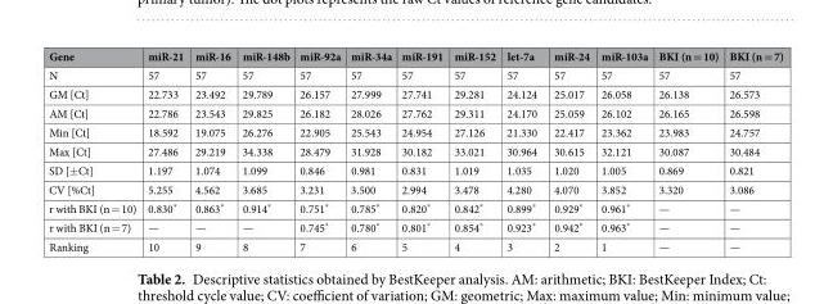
<table><thead><tr><td>Gene</td><td>miR-21</td><td>miR-16</td><td>miR-148b</td><td>miR-92a</td><td>miR-34a</td><td>miR-191</td><td>miR-152</td><td>let-7a</td><td>miR-24</td><td>miR-103a</td><td>BKI (n = 10)</td><td>BKI (n = 7)</td></tr></thead><tbody><tr><td>N</td><td>57</td><td>57</td><td>57</td><td>57</td><td>57</td><td>57</td><td>57</td><td>57</td><td>57</td><td>57</td><td>57</td><td>57</td></tr><tr><td>GM [Ct]</td><td>22.733</td><td>23.492</td><td>29.789</td><td>26.157</td><td>27.999</td><td>27.741</td><td>29.281</td><td>24.124</td><td>25.017</td><td>26.058</td><td>26.138</td><td>26.573</td></tr><tr><td>AM [Ct]</td><td>22.786</td><td>23.543</td><td>29.825</td><td>26.182</td><td>28.026</td><td>27.762</td><td>29.311</td><td>24.170</td><td>25.059</td><td>26.102</td><td>26.165</td><td>26.598</td></tr><tr><td>Min [Ct]</td><td>18.592</td><td>19.075</td><td>26.276</td><td>22.905</td><td>25.543</td><td>24.954</td><td>27.126</td><td>21.330</td><td>22.417</td><td>23.362</td><td>23.983</td><td>24.757</td></tr><tr><td>Max [Ct]</td><td>27.486</td><td>29.219</td><td>34.338</td><td>28.479</td><td>31.928</td><td>30.182</td><td>33.021</td><td>30.964</td><td>30.615</td><td>32.121</td><td>30.087</td><td>30.484</td></tr><tr><td>SD [±Ct]</td><td>1.197</td><td>1.074</td><td>1.099</td><td>0.846</td><td>0.981</td><td>0.831</td><td>1.019</td><td>1.035</td><td>1.020</td><td>1.005</td><td>0.869</td><td>0.821</td></tr><tr><td>CV [%Ct]</td><td>5.255</td><td>4.562</td><td>3.685</td><td>3.231</td><td>3.500</td><td>2.994</td><td>3.478</td><td>4.280</td><td>4.070</td><td>3.852</td><td>3.320</td><td>3.086</td></tr><tr><td>r with BKI (n = 10)</td><td>0.830*</td><td>0.863*</td><td>0.914*</td><td>0.751*</td><td>0.785*</td><td>0.820*</td><td>0.842*</td><td>0.899*</td><td>0.929*</td><td>0.961*</td><td>—</td><td>—</td></tr><tr><td>r with BKI (n = 7)</td><td>—</td><td>—</td><td>—</td><td>0.745*</td><td>0.780*</td><td>0.801*</td><td>0.854*</td><td>0.923*</td><td>0.942*</td><td>0.963*</td><td>—</td><td>—</td></tr><tr><td>Ranking</td><td>10</td><td>9</td><td>8</td><td>7</td><td>6</td><td>5</td><td>4</td><td>3</td><td>2</td><td>1</td><td>—</td><td>—</td></tr></tbody></table>